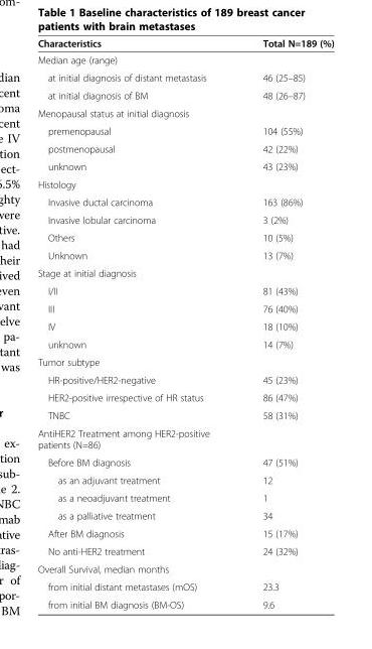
<table><thead><tr><td>Characteristics</td><td>Total N=189 (%)</td></tr></thead><tbody><tr><td colspan="2">Median age (range)</td></tr><tr><td>at initial diagnosis of distant metastasis</td><td>46 (25–85)</td></tr><tr><td>at initial diagnosis of BM</td><td>48 (26–87)</td></tr><tr><td colspan="2">Menopausal status at initial diagnosis</td></tr><tr><td>premenopausal</td><td>104 (55%)</td></tr><tr><td>postmenopausal</td><td>42 (22%)</td></tr><tr><td>unknown</td><td>43 (23%)</td></tr><tr><td colspan="2">Histology</td></tr><tr><td>Invasive ductal carcinoma</td><td>163 (86%)</td></tr><tr><td>Invasive lobular carcinoma</td><td>3 (2%)</td></tr><tr><td>Others</td><td>10 (5%)</td></tr><tr><td>Unknown</td><td>13 (7%)</td></tr><tr><td colspan="2">Stage at initial diagnosis</td></tr><tr><td>I/II</td><td>81 (43%)</td></tr><tr><td>III</td><td>76 (40%)</td></tr><tr><td>IV</td><td>18 (10%)</td></tr><tr><td>unknown</td><td>14 (7%)</td></tr><tr><td colspan="2">Tumor subtype</td></tr><tr><td>HR-positive/HER2-negative</td><td>45 (23%)</td></tr><tr><td>HER2-positive irrespective of HR status</td><td>86 (47%)</td></tr><tr><td>TNBC</td><td>58 (31%)</td></tr><tr><td colspan="2">AntiHER2 Treatment among HER2-positive patients (N=86)</td></tr><tr><td>Before BM diagnosis</td><td>47 (51%)</td></tr><tr><td>as an adjuvant treatment</td><td>12</td></tr><tr><td>as a neoadjuvant treatment</td><td>1</td></tr><tr><td>as a palliative treatment</td><td>34</td></tr><tr><td>After BM diagnosis</td><td>15 (17%)</td></tr><tr><td>No anti-HER2 treatment</td><td>24 (32%)</td></tr><tr><td colspan="2">Overall Survival, median months</td></tr><tr><td>from initial distant metastases (mOS)</td><td>23.3</td></tr><tr><td>from initial BM diagnosis (BM-OS)</td><td>9.6</td></tr></tbody></table>